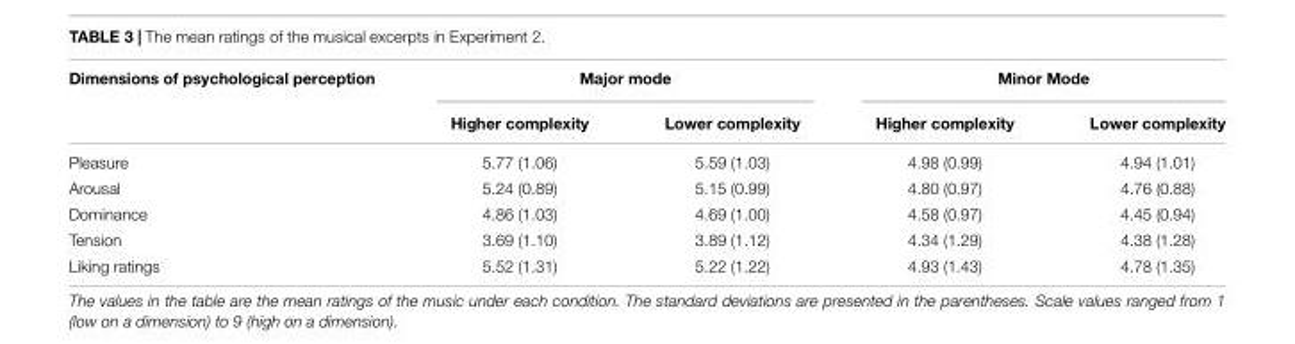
<table><thead><tr><td rowspan="2">Dimensions of psychological perception</td><td colspan="2">Major mode</td><td colspan="2">Minor Mode</td></tr><tr><td>Higher complexity</td><td>Lower complexity</td><td>Higher complexity</td><td>Lower complexity</td></tr></thead><tbody><tr><td>Pleasure</td><td>5.77 (1.06)</td><td>5.59 (1.03)</td><td>4.98 (0.99)</td><td>4.94 (1.01)</td></tr><tr><td>Arousal</td><td>5.24 (0.89)</td><td>5.15 (0.99)</td><td>4.80 (0.97)</td><td>4.76 (0.88)</td></tr><tr><td>Dominance</td><td>4.86 (1.03)</td><td>4.69 (1.00)</td><td>4.58 (0.97)</td><td>4.45 (0.94)</td></tr><tr><td>Tension</td><td>3.69 (1.10)</td><td>3.89 (1.12)</td><td>4.34 (1.29)</td><td>4.38 (1.28)</td></tr><tr><td>Liking ratings</td><td>5.52 (1.31)</td><td>5.22 (1.22)</td><td>4.93 (1.43)</td><td>4.78 (1.35)</td></tr></tbody></table>